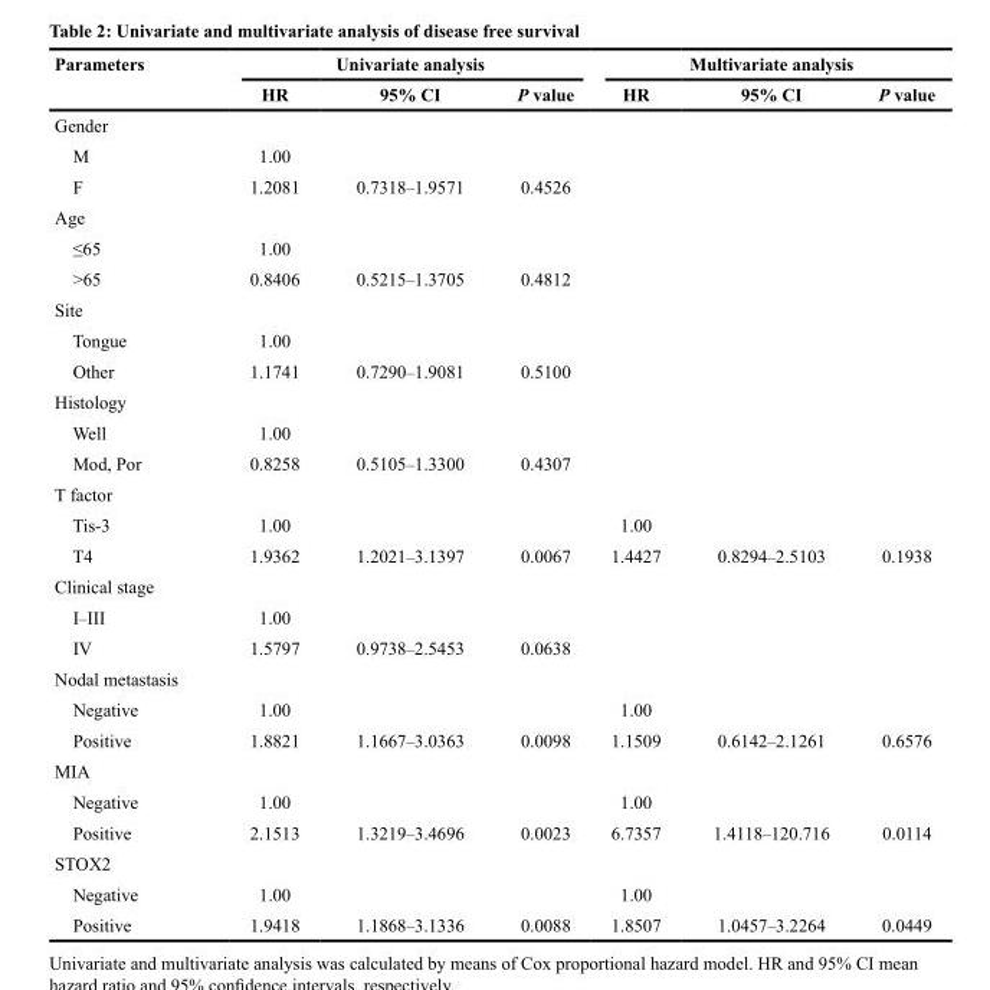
<table><thead><tr><td rowspan="2">Parameters</td><td colspan="3">Univariate analysis</td><td colspan="3">Multivariate analysis</td></tr><tr><td>HR</td><td>95% CI</td><td>P value</td><td>HR</td><td>95% CI</td><td>P value</td></tr></thead><tbody><tr><td colspan="7">Gender</td></tr><tr><td>M</td><td>1.00</td><td></td><td></td><td></td><td></td><td></td></tr><tr><td>F</td><td>1.2081</td><td>0.7318–1.9571</td><td>0.4526</td><td></td><td></td><td></td></tr><tr><td colspan="7">Age</td></tr><tr><td>≤65</td><td>1.00</td><td></td><td></td><td></td><td></td><td></td></tr><tr><td>&gt;65</td><td>0.8406</td><td>0.5215–1.3705</td><td>0.4812</td><td></td><td></td><td></td></tr><tr><td colspan="7">Site</td></tr><tr><td>Tongue</td><td>1.00</td><td></td><td></td><td></td><td></td><td></td></tr><tr><td>Other</td><td>1.1741</td><td>0.7290–1.9081</td><td>0.5100</td><td></td><td></td><td></td></tr><tr><td colspan="7">Histology</td></tr><tr><td>Well</td><td>1.00</td><td></td><td></td><td></td><td></td><td></td></tr><tr><td>Mod, Por</td><td>0.8258</td><td>0.5105–1.3300</td><td>0.4307</td><td></td><td></td><td></td></tr><tr><td colspan="7">T factor</td></tr><tr><td>Tis-3</td><td>1.00</td><td></td><td></td><td>1.00</td><td></td><td></td></tr><tr><td>T4</td><td>1.9362</td><td>1.2021–3.1397</td><td>0.0067</td><td>1.4427</td><td>0.8294–2.5103</td><td>0.1938</td></tr><tr><td colspan="7">Clinical stage</td></tr><tr><td>I–III</td><td>1.00</td><td></td><td></td><td></td><td></td><td></td></tr><tr><td>IV</td><td>1.5797</td><td>0.9738–2.5453</td><td>0.0638</td><td></td><td></td><td></td></tr><tr><td colspan="7">Nodal metastasis</td></tr><tr><td>Negative</td><td>1.00</td><td></td><td></td><td>1.00</td><td></td><td></td></tr><tr><td>Positive</td><td>1.8821</td><td>1.1667–3.0363</td><td>0.0098</td><td>1.1509</td><td>0.6142–2.1261</td><td>0.6576</td></tr><tr><td colspan="7">MIA</td></tr><tr><td>Negative</td><td>1.00</td><td></td><td></td><td>1.00</td><td></td><td></td></tr><tr><td>Positive</td><td>2.1513</td><td>1.3219–3.4696</td><td>0.0023</td><td>6.7357</td><td>1.4118–120.716</td><td>0.0114</td></tr><tr><td colspan="7">STOX2</td></tr><tr><td>Negative</td><td>1.00</td><td></td><td></td><td>1.00</td><td></td><td></td></tr><tr><td>Positive</td><td>1.9418</td><td>1.1868–3.1336</td><td>0.0088</td><td>1.8507</td><td>1.0457–3.2264</td><td>0.0449</td></tr></tbody></table>